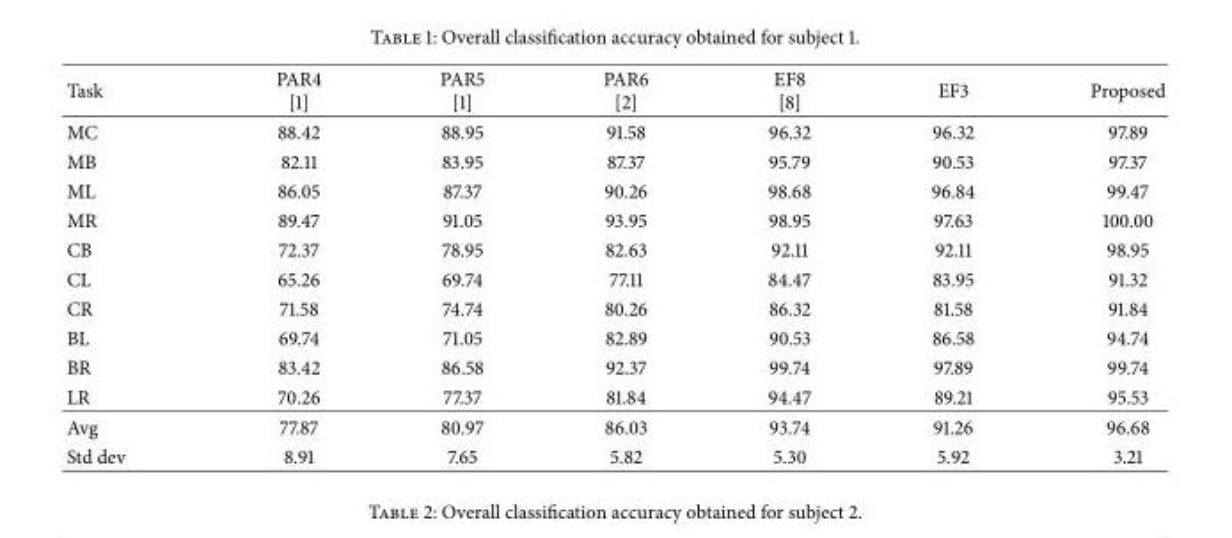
<table><thead><tr><td>Task</td><td>PAR4 [1]</td><td>PAR5 [1]</td><td>PAR6 [2]</td><td>EF8 [8]</td><td>EF3</td><td>Proposed</td></tr></thead><tbody><tr><td>MC</td><td>88.42</td><td>88.95</td><td>91.58</td><td>96.32</td><td>96.32</td><td>97.89</td></tr><tr><td>MB</td><td>82.11</td><td>83.95</td><td>87.37</td><td>95.79</td><td>90.53</td><td>97.37</td></tr><tr><td>ML</td><td>86.05</td><td>87.37</td><td>90.26</td><td>98.68</td><td>96.84</td><td>99.47</td></tr><tr><td>MR</td><td>89.47</td><td>91.05</td><td>93.95</td><td>98.95</td><td>97.63</td><td>100.00</td></tr><tr><td>CB</td><td>72.37</td><td>78.95</td><td>82.63</td><td>92.11</td><td>92.11</td><td>98.95</td></tr><tr><td>CL</td><td>65.26</td><td>69.74</td><td>77.11</td><td>84.47</td><td>83.95</td><td>91.32</td></tr><tr><td>CR</td><td>71.58</td><td>74.74</td><td>80.26</td><td>86.32</td><td>81.58</td><td>91.84</td></tr><tr><td>BL</td><td>69.74</td><td>71.05</td><td>82.89</td><td>90.53</td><td>86.58</td><td>94.74</td></tr><tr><td>BR</td><td>83.42</td><td>86.58</td><td>92.37</td><td>99.74</td><td>97.89</td><td>99.74</td></tr><tr><td>LR</td><td>70.26</td><td>77.37</td><td>81.84</td><td>94.47</td><td>89.21</td><td>95.53</td></tr><tr><td>Avg</td><td>77.87</td><td>80.97</td><td>86.03</td><td>93.74</td><td>91.26</td><td>96.68</td></tr><tr><td>Std dev</td><td>8.91</td><td>7.65</td><td>5.82</td><td>5.30</td><td>5.92</td><td>3.21</td></tr></tbody></table>